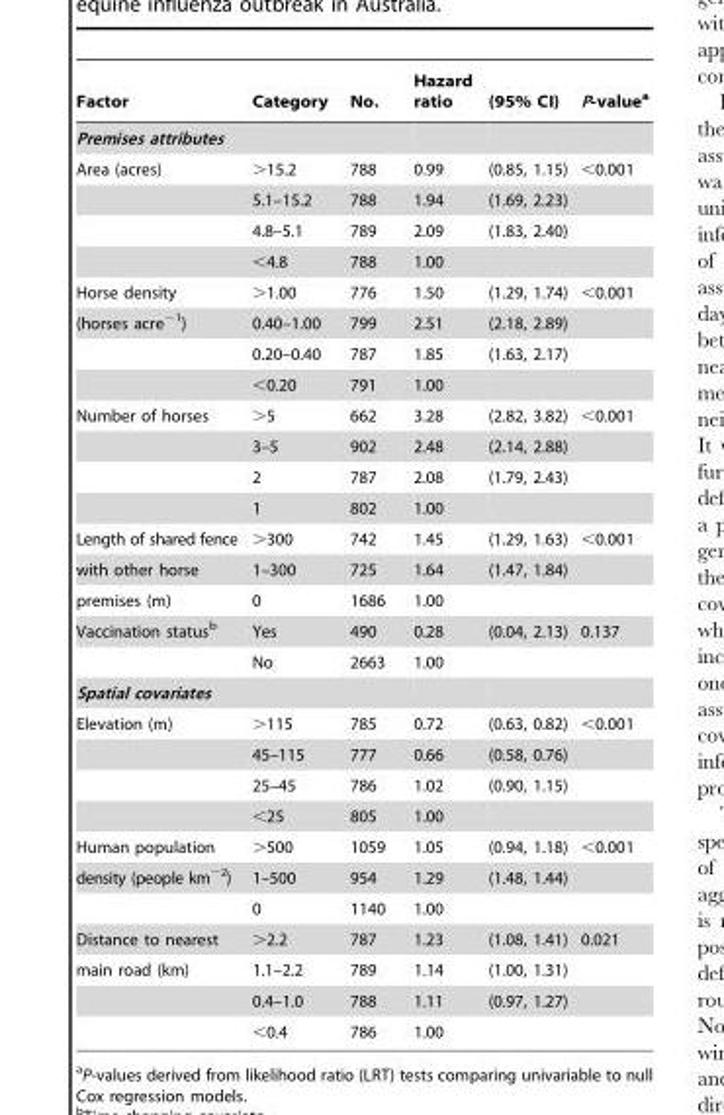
<table><thead><tr><td>Factor</td><td>Category</td><td>No.</td><td>Hazard ratio</td><td>(95% CI)</td><td>P-value<sup>a</sup></td></tr></thead><tbody><tr><td colspan="6">Premises attributes</td></tr><tr><td rowspan="4">Area (acres)</td><td>&gt;15.2</td><td>788</td><td>0.99</td><td>(0.85, 1.15)</td><td>&lt;0.001</td></tr><tr><td>5.1–15.2</td><td>788</td><td>1.94</td><td>(1.69, 2.23)</td><td></td></tr><tr><td>4.8–5.1</td><td>789</td><td>2.09</td><td>(1.83, 2.40)</td><td></td></tr><tr><td>&lt;4.8</td><td>788</td><td>1.00</td><td></td><td></td></tr><tr><td>Horse density</td><td>&gt;1.00</td><td>776</td><td>1.50</td><td>(1.29, 1.74)</td><td>&lt;0.001</td></tr><tr><td rowspan="3">(horses acre<sup>−1</sup>)</td><td>0.40–1.00</td><td>799</td><td>2.51</td><td>(2.18, 2.89)</td><td></td></tr><tr><td>0.20–0.40</td><td>787</td><td>1.85</td><td>(1.63, 2.17)</td><td></td></tr><tr><td>&lt;0.20</td><td>791</td><td>1.00</td><td></td><td></td></tr><tr><td rowspan="4">Number of horses</td><td>&gt;5</td><td>662</td><td>3.28</td><td>(2.82, 3.82)</td><td>&lt;0.001</td></tr><tr><td>3–5</td><td>902</td><td>2.48</td><td>(2.14, 2.88)</td><td></td></tr><tr><td>2</td><td>787</td><td>2.08</td><td>(1.79, 2.43)</td><td></td></tr><tr><td>1</td><td>802</td><td>1.00</td><td></td><td></td></tr><tr><td>Length of shared fence</td><td>&gt;300</td><td>742</td><td>1.45</td><td>(1.29, 1.63)</td><td>&lt;0.001</td></tr><tr><td>with other horse</td><td>1–300</td><td>725</td><td>1.64</td><td>(1.47, 1.84)</td><td></td></tr><tr><td>premises (m)</td><td>0</td><td>1686</td><td>1.00</td><td></td><td></td></tr><tr><td rowspan="2">Vaccination status<sup>b</sup></td><td>Yes</td><td>490</td><td>0.28</td><td>(0.04, 2.13)</td><td>0.137</td></tr><tr><td>No</td><td>2663</td><td>1.00</td><td></td><td></td></tr><tr><td colspan="6">Spatial covariates</td></tr><tr><td rowspan="4">Elevation (m)</td><td>&gt;115</td><td>785</td><td>0.72</td><td>(0.63, 0.82)</td><td>&lt;0.001</td></tr><tr><td>45–115</td><td>777</td><td>0.66</td><td>(0.58, 0.76)</td><td></td></tr><tr><td>25–45</td><td>786</td><td>1.02</td><td>(0.90, 1.15)</td><td></td></tr><tr><td>&lt;25</td><td>805</td><td>1.00</td><td></td><td></td></tr><tr><td>Human population</td><td>&gt;500</td><td>1059</td><td>1.05</td><td>(0.94, 1.18)</td><td>&lt;0.001</td></tr><tr><td rowspan="2">density (people km<sup>−2</sup>)</td><td>1–500</td><td>954</td><td>1.29</td><td>(1.48, 1.44)</td><td></td></tr><tr><td>0</td><td>1140</td><td>1.00</td><td></td><td></td></tr><tr><td>Distance to nearest</td><td>&gt;2.2</td><td>787</td><td>1.23</td><td>(1.08, 1.41)</td><td>0.021</td></tr><tr><td rowspan="3">main road (km)</td><td>1.1–2.2</td><td>789</td><td>1.14</td><td>(1.00, 1.31)</td><td></td></tr><tr><td>0.4–1.0</td><td>788</td><td>1.11</td><td>(0.97, 1.27)</td><td></td></tr><tr><td>&lt;0.4</td><td>786</td><td>1.00</td><td></td><td></td></tr></tbody></table>